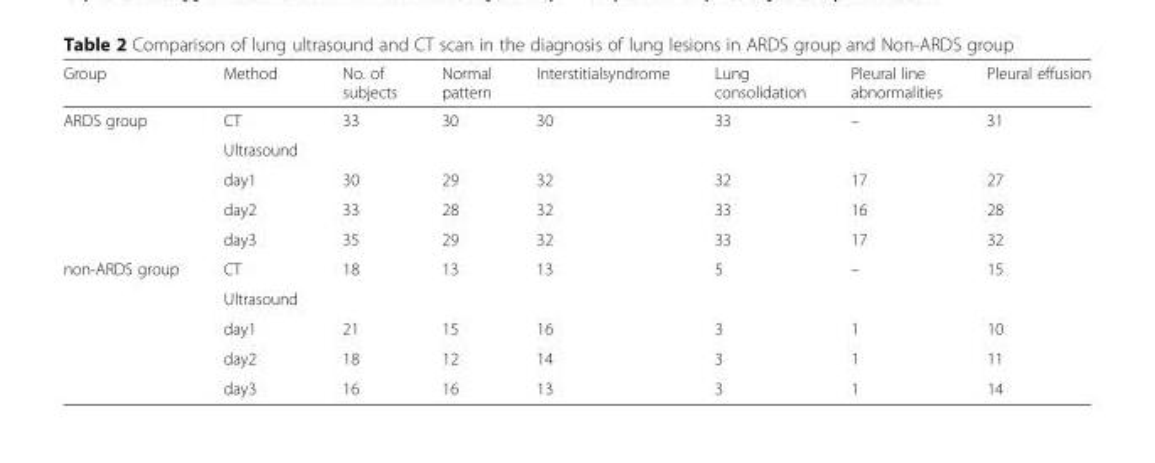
<table><thead><tr><td>Group</td><td>Method</td><td>No. of subjects</td><td>Normal pattern</td><td>Interstitialsyndrome</td><td>Lung consolidation</td><td>Pleural line abnormalities</td><td>Pleural effusion</td></tr></thead><tbody><tr><td rowspan="5">ARDS group</td><td>CT</td><td>33</td><td>30</td><td>30</td><td>33</td><td>–</td><td>31</td></tr><tr><td>Ultrasound</td><td></td><td></td><td></td><td></td><td></td><td></td></tr><tr><td>day1</td><td>30</td><td>29</td><td>32</td><td>32</td><td>17</td><td>27</td></tr><tr><td>day2</td><td>33</td><td>28</td><td>32</td><td>33</td><td>16</td><td>28</td></tr><tr><td>day3</td><td>35</td><td>29</td><td>32</td><td>33</td><td>17</td><td>32</td></tr><tr><td rowspan="5">non-ARDS group</td><td>CT</td><td>18</td><td>13</td><td>13</td><td>5</td><td>–</td><td>15</td></tr><tr><td>Ultrasound</td><td></td><td></td><td></td><td></td><td></td><td></td></tr><tr><td>day1</td><td>21</td><td>15</td><td>16</td><td>3</td><td>1</td><td>10</td></tr><tr><td>day2</td><td>18</td><td>12</td><td>14</td><td>3</td><td>1</td><td>11</td></tr><tr><td>day3</td><td>16</td><td>16</td><td>13</td><td>3</td><td>1</td><td>14</td></tr></tbody></table>